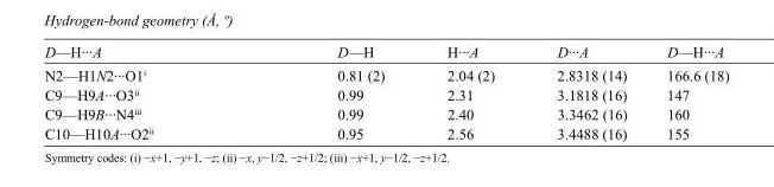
<table><tbody><tr><td>D—H···A</td><td>D—H</td><td>H···A</td><td>D···A</td><td>D—H···A</td></tr><tr><td>N2—H1N2···O1<sup>i</sup></td><td>0.81 (2)</td><td>2.04 (2)</td><td>2.8318 (14)</td><td>166.6 (18)</td></tr><tr><td>C9—H9A···O3<sup>ii</sup></td><td>0.99</td><td>2.31</td><td>3.1818 (16)</td><td>147</td></tr><tr><td>C9—H9B···N4<sup>iii</sup></td><td>0.99</td><td>2.40</td><td>3.3462 (16)</td><td>160</td></tr><tr><td>C10—H10A···O2<sup>ii</sup></td><td>0.95</td><td>2.56</td><td>3.4488 (16)</td><td>155</td></tr></tbody></table>